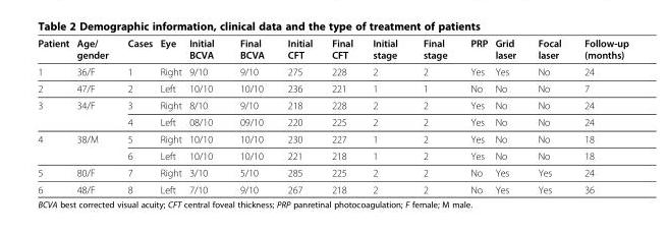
<table><thead><tr><td>Patient</td><td>Age/ gender</td><td>Cases</td><td>Eye</td><td>Initial BCVA</td><td>Final BCVA</td><td>Initial CFT</td><td>Final CFT</td><td>Initial stage</td><td>Final stage</td><td>PRP</td><td>Grid laser</td><td>Focal laser</td><td>Follow-up (months)</td></tr></thead><tbody><tr><td>1</td><td>36/F</td><td>1</td><td>Right</td><td>9/10</td><td>9/10</td><td>275</td><td>228</td><td>2</td><td>2</td><td>Yes</td><td>Yes</td><td>No</td><td>24</td></tr><tr><td>2</td><td>47/F</td><td>2</td><td>Left</td><td>10/10</td><td>10/10</td><td>236</td><td>221</td><td>1</td><td>1</td><td>No</td><td>No</td><td>No</td><td>7</td></tr><tr><td rowspan="2">3</td><td rowspan="2">34/F</td><td>3</td><td>Right</td><td>8/10</td><td>9/10</td><td>218</td><td>228</td><td>2</td><td>2</td><td>Yes</td><td>No</td><td>No</td><td>24</td></tr><tr><td>4</td><td>Left</td><td>08/10</td><td>09/10</td><td>220</td><td>225</td><td>2</td><td>2</td><td>Yes</td><td>No</td><td>No</td><td>24</td></tr><tr><td rowspan="2">4</td><td rowspan="2">38/M</td><td>5</td><td>Right</td><td>10/10</td><td>10/10</td><td>230</td><td>227</td><td>1</td><td>2</td><td>Yes</td><td>No</td><td>No</td><td>18</td></tr><tr><td>6</td><td>Left</td><td>10/10</td><td>10/10</td><td>221</td><td>218</td><td>1</td><td>2</td><td>Yes</td><td>No</td><td>No</td><td>18</td></tr><tr><td>5</td><td>80/F</td><td>7</td><td>Right</td><td>3/10</td><td>5/10</td><td>285</td><td>225</td><td>2</td><td>2</td><td>No</td><td>Yes</td><td>Yes</td><td>24</td></tr><tr><td>6</td><td>48/F</td><td>8</td><td>Left</td><td>7/10</td><td>9/10</td><td>267</td><td>218</td><td>2</td><td>2</td><td>No</td><td>Yes</td><td>Yes</td><td>36</td></tr></tbody></table>